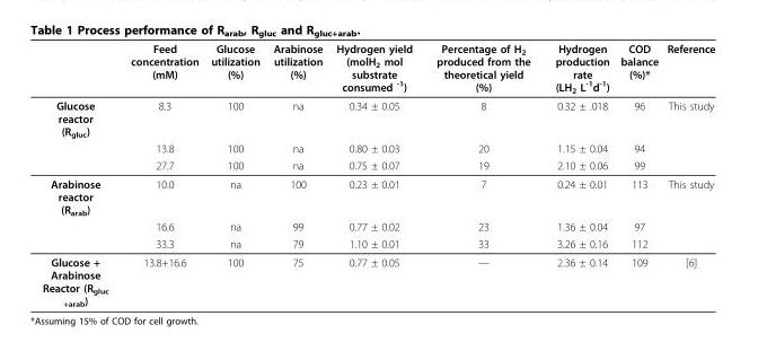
<table><thead><tr><td></td><td>Feed concentration (mM)</td><td>Glucose utilization (%)</td><td>Arabinose utilization (%)</td><td>Hydrogen yield (molH<sub>2</sub> mol substrate consumed <sup>-1</sup>)</td><td>Percentage of H<sub>2</sub> produced from the theoretical yield (%)</td><td>Hydrogen production rate (LH<sub>2</sub> L<sup>-1</sup>d<sup>-1</sup>)</td><td>COD balance (%)*</td><td>Reference</td></tr></thead><tbody><tr><td rowspan="3">Glucose reactor (R<sub>gluc</sub>)</td><td>8.3</td><td>100</td><td>na</td><td>0.34 ± 0.05</td><td>8</td><td>0.32 ± .018</td><td>96</td><td>This study</td></tr><tr><td>13.8</td><td>100</td><td>na</td><td>0.80 ± 0.03</td><td>20</td><td>1.15 ± 0.04</td><td>94</td><td></td></tr><tr><td>27.7</td><td>100</td><td>na</td><td>0.75 ± 0.07</td><td>19</td><td>2.10 ± 0.06</td><td>99</td><td></td></tr><tr><td rowspan="3">Arabinose reactor (R<sub>arab</sub>)</td><td>10.0</td><td>na</td><td>100</td><td>0.23 ± 0.01</td><td>7</td><td>0.24 ± 0.01</td><td>113</td><td>This study</td></tr><tr><td>16.6</td><td>na</td><td>99</td><td>0.77 ± 0.02</td><td>23</td><td>1.36 ± 0.04</td><td>97</td><td></td></tr><tr><td>33.3</td><td>na</td><td>79</td><td>1.10 ± 0.01</td><td>33</td><td>3.26 ± 0.16</td><td>112</td><td></td></tr><tr><td>Glucose + Arabinose Reactor (R<sub>gluc +arab</sub>)</td><td>13.8+16.6</td><td>100</td><td>75</td><td>0.77 ± 0.05</td><td>—</td><td>2.36 ± 0.14</td><td>109</td><td>[6]</td></tr></tbody></table>